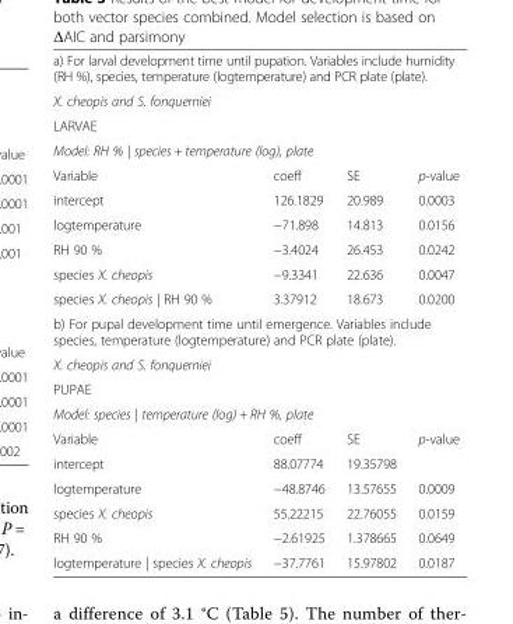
<table><tbody><tr><td colspan="4">a) For larval development time until pupation. Variables include humidity (RH %), species, temperature (logtemperature) and PCR plate (plate).</td></tr><tr><td colspan="4">X. cheopis and S. fonquerniei</td></tr><tr><td colspan="4">LARVAE</td></tr><tr><td colspan="4">Model: RH % | species + temperature (log), plate</td></tr><tr><td>Variable</td><td>coeff</td><td>SE</td><td>p-value</td></tr><tr><td>intercept</td><td>126.1829</td><td>20.989</td><td>0.0003</td></tr><tr><td>logtemperature</td><td>−71.898</td><td>14.813</td><td>0.0156</td></tr><tr><td>RH 90 %</td><td>−3.4024</td><td>26.453</td><td>0.0242</td></tr><tr><td>species X. cheopis</td><td>−9.3341</td><td>22.636</td><td>0.0047</td></tr><tr><td>species X. cheopis | RH 90 %</td><td>3.37912</td><td>18.673</td><td>0.0200</td></tr><tr><td colspan="4">b) For pupal development time until emergence. Variables include species, temperature (logtemperature) and PCR plate (plate).</td></tr><tr><td colspan="4">X. cheopis and S. fonquerniei</td></tr><tr><td colspan="4">PUPAE</td></tr><tr><td colspan="4">Model: species | temperature (log) + RH %, plate</td></tr><tr><td>Variable</td><td>coeff</td><td>SE</td><td>p-value</td></tr><tr><td>intercept</td><td>88.07774</td><td>19.35798</td><td></td></tr><tr><td>logtemperature</td><td>−48.8746</td><td>13.57655</td><td>0.0009</td></tr><tr><td>species X. cheopis</td><td>55.22215</td><td>22.76055</td><td>0.0159</td></tr><tr><td>RH 90 %</td><td>−2.61925</td><td>1.378665</td><td>0.0649</td></tr><tr><td>logtemperature | species X. cheopis</td><td>−37.7761</td><td>15.97802</td><td>0.0187</td></tr></tbody></table>